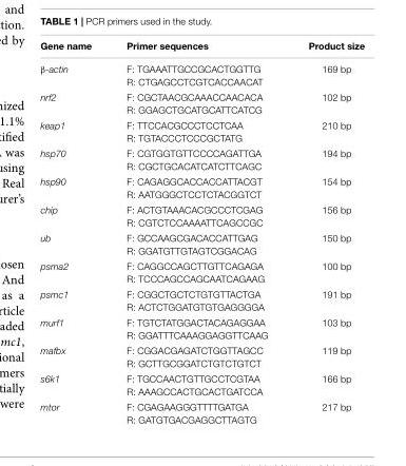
<table><thead><tr><td>Gene name</td><td>Primer sequences</td><td>Product size</td></tr></thead><tbody><tr><td>β-actin</td><td>F: TGAAATTGCCGCACTGGTTG R: CTGAGCCTCGTCACCAACAT</td><td>169 bp</td></tr><tr><td>nrf2</td><td>F: CGCTAACGCAAACCAACACA R: GGAGCTGCATGCATTCATCG</td><td>102 bp</td></tr><tr><td>keap1</td><td>F: TTCCACGCCCTCCTCAA R: TGTACCCTCCCGCTATG</td><td>210 bp</td></tr><tr><td>hsp70</td><td>F: CGTGGTGTTCCCCAGATTGA R: CGCTGCACATCATCTTCAGC</td><td>194 bp</td></tr><tr><td>hsp90</td><td>F: CAGAGGCACCACCATTACGT R: AATGGGCTCCTCTACGGTCT</td><td>154 bp</td></tr><tr><td>chip</td><td>F: ACTGTAAACACGCCCTCGAG R: CGTCTCCAAAATTCAGCCGC</td><td>156 bp</td></tr><tr><td>ub</td><td>F: GCCAAGCGACACCATTGAG R: GGATGTTGTAGTCGGACAG</td><td>150 bp</td></tr><tr><td>psma2</td><td>F: CAGGCCAGCTTGTTCAGAGA R: TCCCAGCCAGCAATCAGAAG</td><td>100 bp</td></tr><tr><td>psmc1</td><td>F: CGGCTGCTCTGTGTTACTGA R: ACTCTGGATGTGTGAGGGGA</td><td>191 bp</td></tr><tr><td>murf1</td><td>F: TGTCTATGGACTACAGAGGAA R: GGATTTCAAAGGAGGTTCAAG</td><td>103 bp</td></tr><tr><td>mafbx</td><td>F: CGGACGAGATCTGGTTAGCC R: GCTTGCGGATCTGTCTGTCT</td><td>119 bp</td></tr><tr><td>s6k1</td><td>F: TGCCAACTGTTGCCTCGTAA R: AAAGCCACTGCACTGATCCA</td><td>166 bp</td></tr><tr><td>mtor</td><td>F: CGAGAAGGGTTTTGATGA R: GATGTGACGAGGCTTAGTG</td><td>217 bp</td></tr></tbody></table>